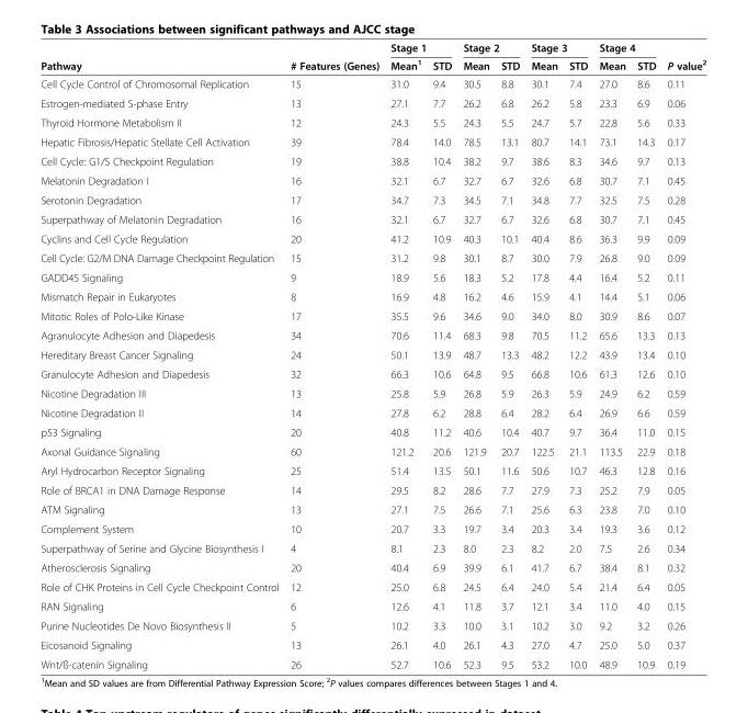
<table><thead><tr><td rowspan="2">Pathway</td><td rowspan="2"># Features (Genes)</td><td colspan="2">Stage 1</td><td colspan="2">Stage 2</td><td colspan="2">Stage 3</td><td colspan="2">Stage 4</td><td rowspan="2">P value<sup>2</sup></td></tr><tr><td>Mean<sup>1</sup></td><td>STD</td><td>Mean</td><td>STD</td><td>Mean</td><td>STD</td><td>Mean</td><td>STD</td></tr></thead><tbody><tr><td>Cell Cycle Control of Chromosomal Replication</td><td>15</td><td>31.0</td><td>9.4</td><td>30.5</td><td>8.8</td><td>30.1</td><td>7.4</td><td>27.0</td><td>8.6</td><td>0.11</td></tr><tr><td>Estrogen-mediated S-phase Entry</td><td>13</td><td>27.1</td><td>7.7</td><td>26.2</td><td>6.8</td><td>26.2</td><td>5.8</td><td>23.3</td><td>6.9</td><td>0.06</td></tr><tr><td>Thyroid Hormone Metabolism II</td><td>12</td><td>24.3</td><td>5.5</td><td>24.3</td><td>5.5</td><td>24.7</td><td>5.7</td><td>22.8</td><td>5.6</td><td>0.33</td></tr><tr><td>Hepatic Fibrosis/Hepatic Stellate Cell Activation</td><td>39</td><td>78.4</td><td>14.0</td><td>78.5</td><td>13.1</td><td>80.7</td><td>14.1</td><td>73.1</td><td>14.3</td><td>0.17</td></tr><tr><td>Cell Cycle: G1/S Checkpoint Regulation</td><td>19</td><td>38.8</td><td>10.4</td><td>38.2</td><td>9.7</td><td>38.6</td><td>8.3</td><td>34.6</td><td>9.7</td><td>0.13</td></tr><tr><td>Melatonin Degradation I</td><td>16</td><td>32.1</td><td>6.7</td><td>32.7</td><td>6.7</td><td>32.6</td><td>6.8</td><td>30.7</td><td>7.1</td><td>0.45</td></tr><tr><td>Serotonin Degradation</td><td>17</td><td>34.7</td><td>7.3</td><td>34.5</td><td>7.1</td><td>34.8</td><td>7.7</td><td>32.5</td><td>7.5</td><td>0.28</td></tr><tr><td>Superpathway of Melatonin Degradation</td><td>16</td><td>32.1</td><td>6.7</td><td>32.7</td><td>6.7</td><td>32.6</td><td>6.8</td><td>30.7</td><td>7.1</td><td>0.45</td></tr><tr><td>Cyclins and Cell Cycle Regulation</td><td>20</td><td>41.2</td><td>10.9</td><td>40.3</td><td>10.1</td><td>40.4</td><td>8.6</td><td>36.3</td><td>9.9</td><td>0.09</td></tr><tr><td>Cell Cycle: G2/M DNA Damage Checkpoint Regulation</td><td>15</td><td>31.2</td><td>9.8</td><td>30.1</td><td>8.7</td><td>30.0</td><td>7.9</td><td>26.8</td><td>9.0</td><td>0.09</td></tr><tr><td>GADD45 Signaling</td><td>9</td><td>18.9</td><td>5.6</td><td>18.3</td><td>5.2</td><td>17.8</td><td>4.4</td><td>16.4</td><td>5.2</td><td>0.11</td></tr><tr><td>Mismatch Repair in Eukaryotes</td><td>8</td><td>16.9</td><td>4.8</td><td>16.2</td><td>4.6</td><td>15.9</td><td>4.1</td><td>14.4</td><td>5.1</td><td>0.06</td></tr><tr><td>Mitotic Roles of Polo-Like Kinase</td><td>17</td><td>35.5</td><td>9.6</td><td>34.6</td><td>9.0</td><td>34.0</td><td>8.0</td><td>30.9</td><td>8.6</td><td>0.07</td></tr><tr><td>Agranulocyte Adhesion and Diapedesis</td><td>34</td><td>70.6</td><td>11.4</td><td>68.3</td><td>9.8</td><td>70.5</td><td>11.2</td><td>65.6</td><td>13.3</td><td>0.13</td></tr><tr><td>Hereditary Breast Cancer Signaling</td><td>24</td><td>50.1</td><td>13.9</td><td>48.7</td><td>13.3</td><td>48.2</td><td>12.2</td><td>43.9</td><td>13.4</td><td>0.10</td></tr><tr><td>Granulocyte Adhesion and Diapedesis</td><td>32</td><td>66.3</td><td>10.6</td><td>64.8</td><td>9.5</td><td>66.8</td><td>10.6</td><td>61.3</td><td>12.6</td><td>0.10</td></tr><tr><td>Nicotine Degradation III</td><td>13</td><td>25.8</td><td>5.9</td><td>26.8</td><td>5.9</td><td>26.3</td><td>5.9</td><td>24.9</td><td>6.2</td><td>0.59</td></tr><tr><td>Nicotine Degradation II</td><td>14</td><td>27.8</td><td>6.2</td><td>28.8</td><td>6.4</td><td>28.2</td><td>6.4</td><td>26.9</td><td>6.6</td><td>0.59</td></tr><tr><td>p53 Signaling</td><td>20</td><td>40.8</td><td>11.2</td><td>40.6</td><td>10.4</td><td>40.7</td><td>9.7</td><td>36.4</td><td>11.0</td><td>0.15</td></tr><tr><td>Axonal Guidance Signaling</td><td>60</td><td>121.2</td><td>20.6</td><td>121.9</td><td>20.7</td><td>122.5</td><td>21.1</td><td>113.5</td><td>22.9</td><td>0.18</td></tr><tr><td>Aryl Hydrocarbon Receptor Signaling</td><td>25</td><td>51.4</td><td>13.5</td><td>50.1</td><td>11.6</td><td>50.6</td><td>10.7</td><td>46.3</td><td>12.8</td><td>0.16</td></tr><tr><td>Role of BRCA1 in DNA Damage Response</td><td>14</td><td>29.5</td><td>8.2</td><td>28.6</td><td>7.7</td><td>27.9</td><td>7.3</td><td>25.2</td><td>7.9</td><td>0.05</td></tr><tr><td>ATM Signaling</td><td>13</td><td>27.1</td><td>7.5</td><td>26.6</td><td>7.1</td><td>25.6</td><td>6.3</td><td>23.8</td><td>7.0</td><td>0.10</td></tr><tr><td>Complement System</td><td>10</td><td>20.7</td><td>3.3</td><td>19.7</td><td>3.4</td><td>20.3</td><td>3.4</td><td>19.3</td><td>3.6</td><td>0.12</td></tr><tr><td>Superpathway of Serine and Glycine Biosynthesis I</td><td>4</td><td>8.1</td><td>2.3</td><td>8.0</td><td>2.3</td><td>8.2</td><td>2.0</td><td>7.5</td><td>2.6</td><td>0.34</td></tr><tr><td>Atherosclerosis Signaling</td><td>20</td><td>40.4</td><td>6.9</td><td>39.9</td><td>6.1</td><td>41.7</td><td>6.7</td><td>38.4</td><td>8.1</td><td>0.32</td></tr><tr><td>Role of CHK Proteins in Cell Cycle Checkpoint Control</td><td>12</td><td>25.0</td><td>6.8</td><td>24.5</td><td>6.4</td><td>24.0</td><td>5.4</td><td>21.4</td><td>6.4</td><td>0.05</td></tr><tr><td>RAN Signaling</td><td>6</td><td>12.6</td><td>4.1</td><td>11.8</td><td>3.7</td><td>12.1</td><td>3.4</td><td>11.0</td><td>4.0</td><td>0.15</td></tr><tr><td>Purine Nucleotides De Novo Biosynthesis II</td><td>5</td><td>10.2</td><td>3.3</td><td>10.0</td><td>3.1</td><td>10.2</td><td>3.0</td><td>9.2</td><td>3.2</td><td>0.26</td></tr><tr><td>Eicosanoid Signaling</td><td>13</td><td>26.1</td><td>4.0</td><td>26.1</td><td>4.3</td><td>27.0</td><td>4.7</td><td>25.0</td><td>5.0</td><td>0.37</td></tr><tr><td>Wnt/ß-catenin Signaling</td><td>26</td><td>52.7</td><td>10.6</td><td>52.3</td><td>9.5</td><td>53.2</td><td>10.0</td><td>48.9</td><td>10.9</td><td>0.19</td></tr></tbody></table>